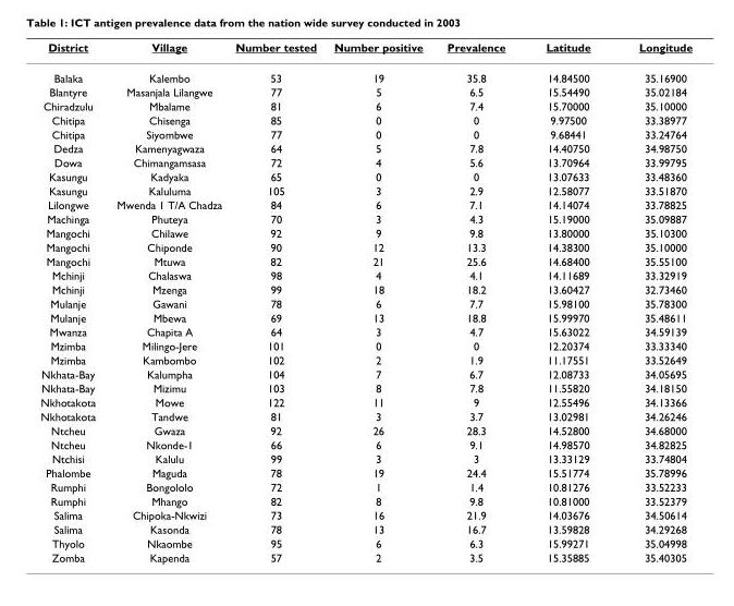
<table><thead><tr><td>District</td><td>Village</td><td>Number tested</td><td>Number positive</td><td>Prevalence</td><td>Latitude</td><td>Longitude</td></tr></thead><tbody><tr><td>Balaka</td><td>Kalembo</td><td>53</td><td>19</td><td>35.8</td><td>14.84500</td><td>35.16900</td></tr><tr><td>Blantyre</td><td>Masanjala Lilangwe</td><td>77</td><td>5</td><td>6.5</td><td>15.54490</td><td>35.02184</td></tr><tr><td>Chiradzulu</td><td>Mbalame</td><td>81</td><td>6</td><td>7.4</td><td>15.70000</td><td>35.10000</td></tr><tr><td>Chitipa</td><td>Chisenga</td><td>85</td><td>0</td><td>0</td><td>9.97500</td><td>33.38977</td></tr><tr><td>Chitipa</td><td>Siyombwe</td><td>77</td><td>0</td><td>0</td><td>9.68441</td><td>33.24764</td></tr><tr><td>Dedza</td><td>Kamenyagwaza</td><td>64</td><td>5</td><td>7.8</td><td>14.40750</td><td>34.98750</td></tr><tr><td>Dowa</td><td>Chimangamsasa</td><td>72</td><td>4</td><td>5.6</td><td>13.70964</td><td>33.99795</td></tr><tr><td>Kasungu</td><td>Kadyaka</td><td>65</td><td>0</td><td>0</td><td>13.07633</td><td>33.48360</td></tr><tr><td>Kasungu</td><td>Kaluluma</td><td>105</td><td>3</td><td>2.9</td><td>12.58077</td><td>33.51870</td></tr><tr><td>Lilongwe</td><td>Mwenda 1 T/A Chadza</td><td>84</td><td>6</td><td>7.1</td><td>14.14074</td><td>33.78825</td></tr><tr><td>Machinga</td><td>Phuteya</td><td>70</td><td>3</td><td>4.3</td><td>15.19000</td><td>35.09887</td></tr><tr><td>Mangochi</td><td>Chilawe</td><td>92</td><td>9</td><td>9.8</td><td>13.80000</td><td>35.10300</td></tr><tr><td>Mangochi</td><td>Chiponde</td><td>90</td><td>12</td><td>13.3</td><td>14.38300</td><td>35.10000</td></tr><tr><td>Mangochi</td><td>Mtuwa</td><td>82</td><td>21</td><td>25.6</td><td>14.68400</td><td>35.55100</td></tr><tr><td>Mchinji</td><td>Chalaswa</td><td>98</td><td>4</td><td>4.1</td><td>14.11689</td><td>33.32919</td></tr><tr><td>Mchinji</td><td>Mzenga</td><td>99</td><td>18</td><td>18.2</td><td>13.60427</td><td>32.73460</td></tr><tr><td>Mulanje</td><td>Gawani</td><td>78</td><td>6</td><td>7.7</td><td>15.98100</td><td>35.78300</td></tr><tr><td>Mulanje</td><td>Mbewa</td><td>69</td><td>13</td><td>18.8</td><td>15.99970</td><td>35.48611</td></tr><tr><td>Mwanza</td><td>Chapita A</td><td>64</td><td>3</td><td>4.7</td><td>15.63022</td><td>34.59139</td></tr><tr><td>Mzimba</td><td>Milingo-Jere</td><td>101</td><td>0</td><td>0</td><td>12.20374</td><td>33.33340</td></tr><tr><td>Mzimba</td><td>Kambombo</td><td>102</td><td>2</td><td>1.9</td><td>11.17551</td><td>33.52649</td></tr><tr><td>Nkhata-Bay</td><td>Kalumpha</td><td>104</td><td>7</td><td>6.7</td><td>12.08733</td><td>34.05695</td></tr><tr><td>Nkhata-Bay</td><td>Mizimu</td><td>103</td><td>8</td><td>7.8</td><td>11.55820</td><td>34.18150</td></tr><tr><td>Nkhotakota</td><td>Mowe</td><td>122</td><td>11</td><td>9</td><td>12.55496</td><td>34.13366</td></tr><tr><td>Nkhotakota</td><td>Tandwe</td><td>81</td><td>3</td><td>3.7</td><td>13.02981</td><td>34.26246</td></tr><tr><td>Ntcheu</td><td>Gwaza</td><td>92</td><td>26</td><td>28.3</td><td>14.52800</td><td>34.68000</td></tr><tr><td>Ntcheu</td><td>Nkonde-1</td><td>66</td><td>6</td><td>9.1</td><td>14.98570</td><td>34.82825</td></tr><tr><td>Ntchisi</td><td>Kalulu</td><td>99</td><td>3</td><td>3</td><td>13.33129</td><td>33.74804</td></tr><tr><td>Phalombe</td><td>Maguda</td><td>78</td><td>19</td><td>24.4</td><td>15.51774</td><td>35.78996</td></tr><tr><td>Rumphi</td><td>Bongololo</td><td>72</td><td>1</td><td>1.4</td><td>10.81276</td><td>33.52233</td></tr><tr><td>Rumphi</td><td>Mhango</td><td>82</td><td>8</td><td>9.8</td><td>10.81000</td><td>33.52379</td></tr><tr><td>Salima</td><td>Chipoka-Nkwizi</td><td>73</td><td>16</td><td>21.9</td><td>14.03676</td><td>34.50614</td></tr><tr><td>Salima</td><td>Kasonda</td><td>78</td><td>13</td><td>16.7</td><td>13.59828</td><td>34.29268</td></tr><tr><td>Thyolo</td><td>Nkaombe</td><td>95</td><td>6</td><td>6.3</td><td>15.99271</td><td>35.04998</td></tr><tr><td>Zomba</td><td>Kapenda</td><td>57</td><td>2</td><td>3.5</td><td>15.35885</td><td>35.40305</td></tr></tbody></table>